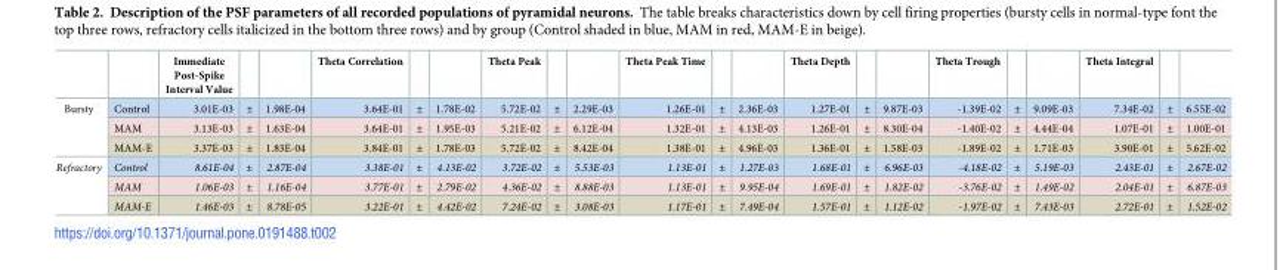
<table><thead><tr><td></td><td></td><td>Immediate Post-Spike Interval Value</td><td></td><td></td><td>Theta Correlation</td><td></td><td></td><td>Theta Peak</td><td></td><td></td><td>Theta Peak Time</td><td></td><td></td><td>Theta Depth</td><td></td><td></td><td>Theta Trough</td><td></td><td></td><td>Theta Integral</td><td></td><td></td></tr></thead><tbody><tr><td rowspan="3">Bursty</td><td>Control</td><td>3.01E-03</td><td>±</td><td>1.98E-04</td><td>3.64E-01</td><td>±</td><td>1.78E-02</td><td>5.72E-02</td><td>±</td><td>2.29E-03</td><td>1.26E-01</td><td>±</td><td>2.36E-03</td><td>1.27E-01</td><td>±</td><td>9.87E-03</td><td>-1.39E-02</td><td>±</td><td>9.09E-03</td><td>7.34E-02</td><td>±</td><td>6.55E-02</td></tr><tr><td>MAM</td><td>3.13E-03</td><td>±</td><td>1.63E-04</td><td>3.64E-01</td><td>±</td><td>1.95E-03</td><td>5.21E-02</td><td>±</td><td>6.12E-04</td><td>1.32E-01</td><td>±</td><td>4.13E-03</td><td>1.26E-01</td><td>±</td><td>8.30E-04</td><td>-1.40E-02</td><td>±</td><td>4.44E-04</td><td>1.07E-01</td><td>±</td><td>1.00E-01</td></tr><tr><td>MAM-E</td><td>3.37E-03</td><td>±</td><td>1.83E-04</td><td>3.84E-01</td><td>±</td><td>1.78E-03</td><td>5.72E-02</td><td>±</td><td>8.42E-04</td><td>1.38E-01</td><td>±</td><td>4.96E-03</td><td>1.36E-01</td><td>±</td><td>1.58E-03</td><td>-1.89E-02</td><td>±</td><td>1.71E-03</td><td>3.90E-01</td><td>±</td><td>5.62E-02</td></tr><tr><td rowspan="3">Refractory</td><td>Control</td><td>8.61E-04</td><td>±</td><td>2.87E-04</td><td>3.38E-01</td><td>±</td><td>4.13E-02</td><td>3.72E-02</td><td>±</td><td>5.53E-03</td><td>1.13E-01</td><td>±</td><td>1.27E-03</td><td>1.68E-01</td><td>±</td><td>6.96E-03</td><td>-4.18E-02</td><td>±</td><td>5.19E-03</td><td>2.43E-01</td><td>±</td><td>2.67E-02</td></tr><tr><td>MAM</td><td>1.06E-03</td><td>±</td><td>1.16E-04</td><td>3.77E-01</td><td>±</td><td>2.79E-02</td><td>4.36E-02</td><td>±</td><td>8.88E-03</td><td>1.13E-01</td><td>±</td><td>9.95E-04</td><td>1.69E-01</td><td>±</td><td>1.82E-02</td><td>-3.76E-02</td><td>±</td><td>1.49E-02</td><td>2.04E-01</td><td>±</td><td>6.87E-03</td></tr><tr><td>MAM-E</td><td>1.46E-03</td><td>±</td><td>8.78E-05</td><td>3.22E-01</td><td>±</td><td>4.42E-02</td><td>7.24E-02</td><td>±</td><td>3.08E-03</td><td>1.17E-01</td><td>±</td><td>7.49E-04</td><td>1.57E-01</td><td>±</td><td>1.12E-02</td><td>-1.97E-02</td><td>±</td><td>7.43E-03</td><td>2.72E-01</td><td>±</td><td>1.52E-02</td></tr></tbody></table>